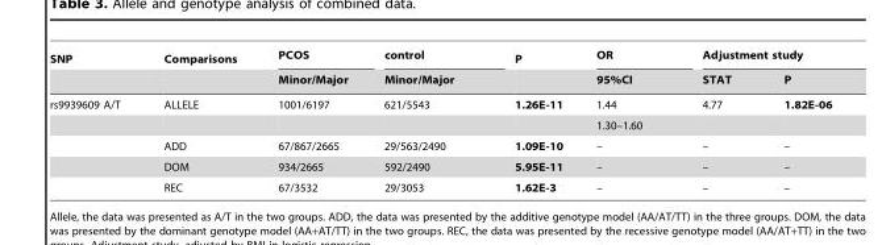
<table><thead><tr><td rowspan="2">SNP</td><td rowspan="2">Comparisons</td><td rowspan="2">PCOS Minor/Major</td><td rowspan="2">control Minor/Major</td><td rowspan="2">P</td><td rowspan="2">OR 95%CI</td><td colspan="2">Adjustment study</td></tr><tr><td>STAT</td><td>P</td></tr></thead><tbody><tr><td rowspan="5">rs9939609 A/T</td><td>ALLELE</td><td>1001/6197</td><td>621/5543</td><td>1.26E-11</td><td>1.44</td><td>4.77</td><td>1.82E-06</td></tr><tr><td></td><td></td><td></td><td></td><td>1.30–1.60</td><td></td><td></td></tr><tr><td>ADD</td><td>67/867/2665</td><td>29/563/2490</td><td>1.09E-10</td><td>–</td><td>–</td><td>–</td></tr><tr><td>DOM</td><td>934/2665</td><td>592/2490</td><td>5.95E-11</td><td>–</td><td>–</td><td>–</td></tr><tr><td>REC</td><td>67/3532</td><td>29/3053</td><td>1.62E-3</td><td>–</td><td>–</td><td>–</td></tr></tbody></table>